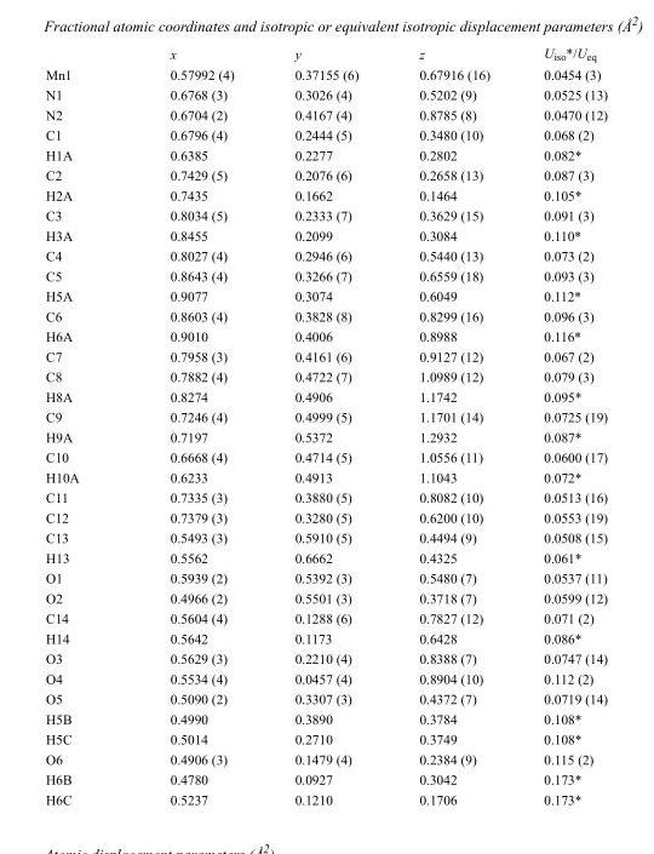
<table><thead><tr><td></td><td>x</td><td>y</td><td>z</td><td>U<sub>iso</sub>*/U<sub>eq</sub></td></tr></thead><tbody><tr><td>Mn1</td><td>0.57992 (4)</td><td>0.37155 (6)</td><td>0.67916 (16)</td><td>0.0454 (3)</td></tr><tr><td>N1</td><td>0.6768 (3)</td><td>0.3026 (4)</td><td>0.5202 (9)</td><td>0.0525 (13)</td></tr><tr><td>N2</td><td>0.6704 (2)</td><td>0.4167 (4)</td><td>0.8785 (8)</td><td>0.0470 (12)</td></tr><tr><td>C1</td><td>0.6796 (4)</td><td>0.2444 (5)</td><td>0.3480 (10)</td><td>0.068 (2)</td></tr><tr><td>H1A</td><td>0.6385</td><td>0.2277</td><td>0.2802</td><td>0.082*</td></tr><tr><td>C2</td><td>0.7429 (5)</td><td>0.2076 (6)</td><td>0.2658 (13)</td><td>0.087 (3)</td></tr><tr><td>H2A</td><td>0.7435</td><td>0.1662</td><td>0.1464</td><td>0.105*</td></tr><tr><td>C3</td><td>0.8034 (5)</td><td>0.2333 (7)</td><td>0.3629 (15)</td><td>0.091 (3)</td></tr><tr><td>H3A</td><td>0.8455</td><td>0.2099</td><td>0.3084</td><td>0.110*</td></tr><tr><td>C4</td><td>0.8027 (4)</td><td>0.2946 (6)</td><td>0.5440 (13)</td><td>0.073 (2)</td></tr><tr><td>C5</td><td>0.8643 (4)</td><td>0.3266 (7)</td><td>0.6559 (18)</td><td>0.093 (3)</td></tr><tr><td>H5A</td><td>0.9077</td><td>0.3074</td><td>0.6049</td><td>0.112*</td></tr><tr><td>C6</td><td>0.8603 (4)</td><td>0.3828 (8)</td><td>0.8299 (16)</td><td>0.096 (3)</td></tr><tr><td>H6A</td><td>0.9010</td><td>0.4006</td><td>0.8988</td><td>0.116*</td></tr><tr><td>C7</td><td>0.7958 (3)</td><td>0.4161 (6)</td><td>0.9127 (12)</td><td>0.067 (2)</td></tr><tr><td>C8</td><td>0.7882 (4)</td><td>0.4722 (7)</td><td>1.0989 (12)</td><td>0.079 (3)</td></tr><tr><td>H8A</td><td>0.8274</td><td>0.4906</td><td>1.1742</td><td>0.095*</td></tr><tr><td>C9</td><td>0.7246 (4)</td><td>0.4999 (5)</td><td>1.1701 (14)</td><td>0.0725 (19)</td></tr><tr><td>H9A</td><td>0.7197</td><td>0.5372</td><td>1.2932</td><td>0.087*</td></tr><tr><td>C10</td><td>0.6668 (4)</td><td>0.4714 (5)</td><td>1.0556 (11)</td><td>0.0600 (17)</td></tr><tr><td>H10A</td><td>0.6233</td><td>0.4913</td><td>1.1043</td><td>0.072*</td></tr><tr><td>C11</td><td>0.7335 (3)</td><td>0.3880 (5)</td><td>0.8082 (10)</td><td>0.0513 (16)</td></tr><tr><td>C12</td><td>0.7379 (3)</td><td>0.3280 (5)</td><td>0.6200 (10)</td><td>0.0553 (19)</td></tr><tr><td>C13</td><td>0.5493 (3)</td><td>0.5910 (5)</td><td>0.4494 (9)</td><td>0.0508 (15)</td></tr><tr><td>H13</td><td>0.5562</td><td>0.6662</td><td>0.4325</td><td>0.061*</td></tr><tr><td>O1</td><td>0.5939 (2)</td><td>0.5392 (3)</td><td>0.5480 (7)</td><td>0.0537 (11)</td></tr><tr><td>O2</td><td>0.4966 (2)</td><td>0.5501 (3)</td><td>0.3718 (7)</td><td>0.0599 (12)</td></tr><tr><td>C14</td><td>0.5604 (4)</td><td>0.1288 (6)</td><td>0.7827 (12)</td><td>0.071 (2)</td></tr><tr><td>H14</td><td>0.5642</td><td>0.1173</td><td>0.6428</td><td>0.086*</td></tr><tr><td>O3</td><td>0.5629 (3)</td><td>0.2210 (4)</td><td>0.8388 (7)</td><td>0.0747 (14)</td></tr><tr><td>O4</td><td>0.5534 (4)</td><td>0.0457 (4)</td><td>0.8904 (10)</td><td>0.112 (2)</td></tr><tr><td>O5</td><td>0.5090 (2)</td><td>0.3307 (3)</td><td>0.4372 (7)</td><td>0.0719 (14)</td></tr><tr><td>H5B</td><td>0.4990</td><td>0.3890</td><td>0.3784</td><td>0.108*</td></tr><tr><td>H5C</td><td>0.5014</td><td>0.2710</td><td>0.3749</td><td>0.108*</td></tr><tr><td>O6</td><td>0.4906 (3)</td><td>0.1479 (4)</td><td>0.2384 (9)</td><td>0.115 (2)</td></tr><tr><td>H6B</td><td>0.4780</td><td>0.0927</td><td>0.3042</td><td>0.173*</td></tr><tr><td>H6C</td><td>0.5237</td><td>0.1210</td><td>0.1706</td><td>0.173*</td></tr></tbody></table>